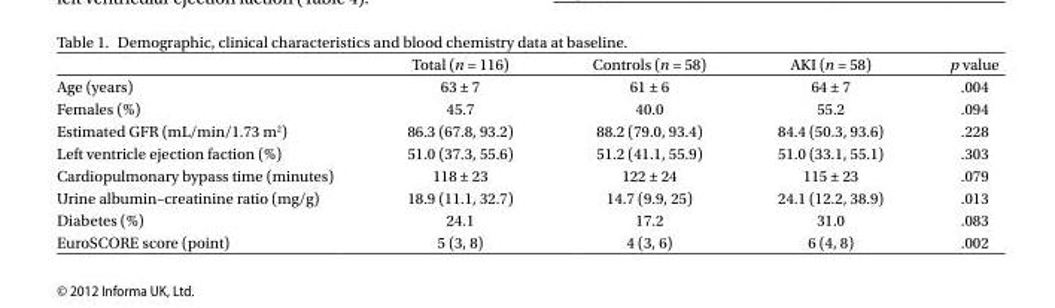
<table><thead><tr><td></td><td>Total (n = 116)</td><td>Controls (n = 58)</td><td>AKI (n = 58)</td><td>p value</td></tr></thead><tbody><tr><td>Age (years)</td><td>63 ± 7</td><td>61 ± 6</td><td>64 ± 7</td><td>.004</td></tr><tr><td>Females (%)</td><td>45.7</td><td>40.0</td><td>55.2</td><td>.094</td></tr><tr><td>Estimated GFR (mL/min/1.73 m<sup>2</sup>)</td><td>86.3 (67.8, 93.2)</td><td>88.2 (79.0, 93.4)</td><td>84.4 (50.3, 93.6)</td><td>.228</td></tr><tr><td>Left ventricle ejection faction (%)</td><td>51.0 (37.3, 55.6)</td><td>51.2 (41.1, 55.9)</td><td>51.0 (33.1, 55.1)</td><td>.303</td></tr><tr><td>Cardiopulmonary bypass time (minutes)</td><td>118 ± 23</td><td>122 ± 24</td><td>115 ± 23</td><td>.079</td></tr><tr><td>Urine albumin–creatinine ratio (mg/g)</td><td>18.9 (11.1, 32.7)</td><td>14.7 (9.9, 25)</td><td>24.1 (12.2, 38.9)</td><td>.013</td></tr><tr><td>Diabetes (%)</td><td>24.1</td><td>17.2</td><td>31.0</td><td>.083</td></tr><tr><td>EuroSCORE score (point)</td><td>5 (3, 8)</td><td>4 (3, 6)</td><td>6 (4, 8)</td><td>.002</td></tr></tbody></table>